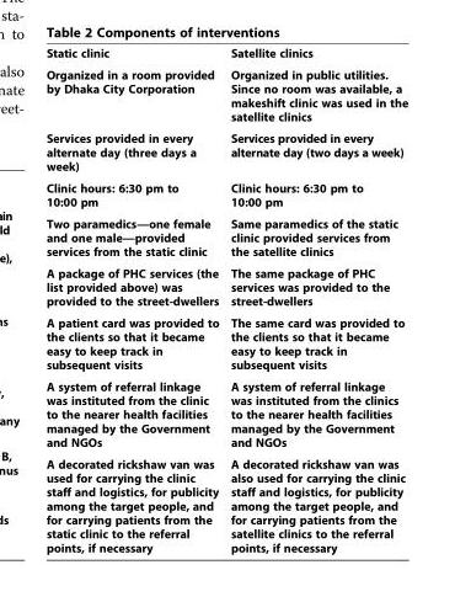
<table><tbody><tr><td>Static clinic</td><td>Satellite clinics</td></tr><tr><td>Organized in a room provided by Dhaka City Corporation</td><td>Organized in public utilities. Since no room was available, a makeshift clinic was used in the satellite clinics</td></tr><tr><td>Services provided in every alternate day (three days a week)</td><td>Services provided in every alternate day (two days a week)</td></tr><tr><td>Clinic hours: 6:30 pm to 10:00 pm</td><td>Clinic hours: 6:30 pm to 10:00 pm</td></tr><tr><td>Two paramedics—one female and one male—provided services from the static clinic</td><td>Same paramedics of the static clinic provided services from the satellite clinics</td></tr><tr><td>A package of PHC services (the list provided above) was provided to the street-dwellers</td><td>The same package of PHC services was provided to the street-dwellers</td></tr><tr><td>A patient card was provided to the clients so that it became easy to keep track in subsequent visits</td><td>The same card was provided to the clients so that it became easy to keep track in subsequent visits</td></tr><tr><td>A system of referral linkage was instituted from the clinic to the nearer health facilities managed by the Government and NGOs</td><td>A system of referral linkage was instituted from the clinics to the nearer health facilities managed by the Government and NGOs</td></tr><tr><td>A decorated rickshaw van was used for carrying the clinic staff and logistics, for publicity among the target people, and for carrying patients from the static clinic to the referral points, if necessary</td><td>A decorated rickshaw van was also used for carrying the clinic staff and logistics, for publicity among the target people, and for carrying patients from the satellite clinics to the referral points, if necessary</td></tr></tbody></table>